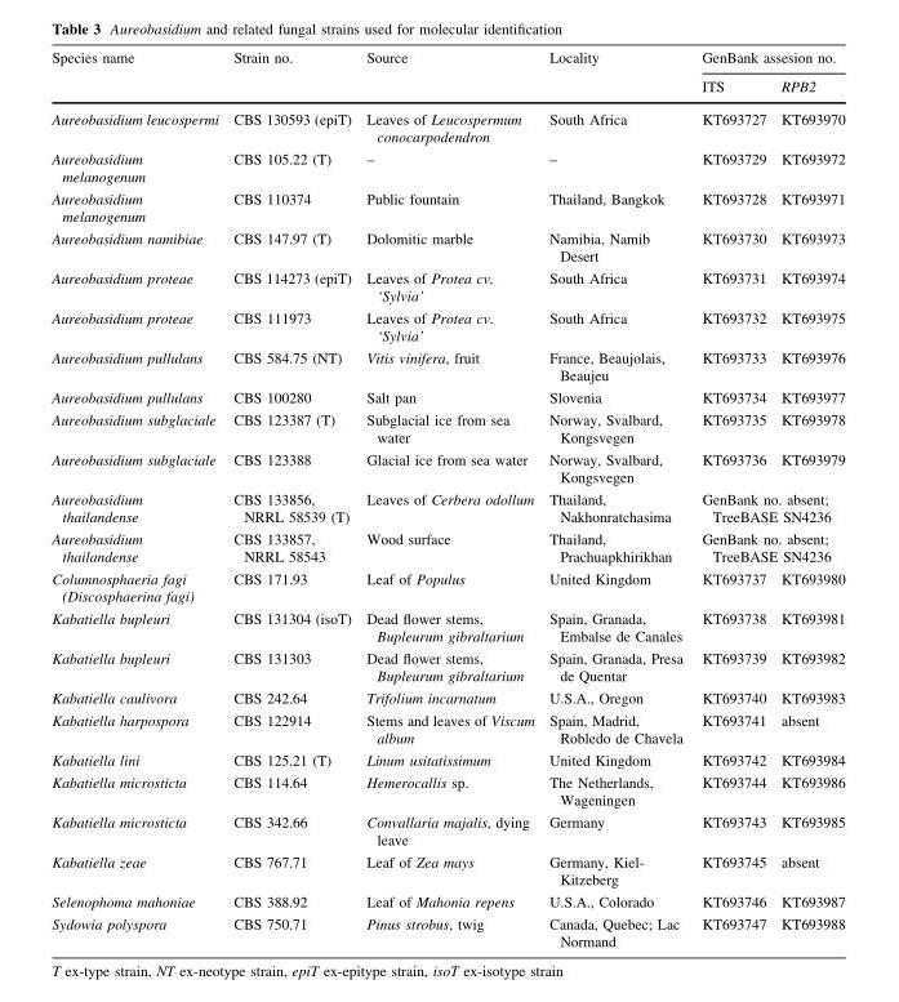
<table><thead><tr><td rowspan="2">Species name</td><td rowspan="2">Strain no.</td><td rowspan="2">Source</td><td rowspan="2">Locality</td><td colspan="2">GenBank assesion no.</td></tr><tr><td>ITS</td><td>RPB2</td></tr></thead><tbody><tr><td>Aureobasidium leucospermi</td><td>CBS 130593 (epiT)</td><td>Leaves of Leucospermum conocarpodendron</td><td>South Africa</td><td>KT693727</td><td>KT693970</td></tr><tr><td>Aureobasidium melanogenum</td><td>CBS 105.22 (T)</td><td>–</td><td>–</td><td>KT693729</td><td>KT693972</td></tr><tr><td>Aureobasidium melanogenum</td><td>CBS 110374</td><td>Public fountain</td><td>Thailand, Bangkok</td><td>KT693728</td><td>KT693971</td></tr><tr><td>Aureobasidium namibiae</td><td>CBS 147.97 (T)</td><td>Dolomitic marble</td><td>Namibia, Namib Desert</td><td>KT693730</td><td>KT693973</td></tr><tr><td>Aureobasidium proteae</td><td>CBS 114273 (epiT)</td><td>Leaves of Protea cv. ‘Sylvia’</td><td>South Africa</td><td>KT693731</td><td>KT693974</td></tr><tr><td>Aureobasidium proteae</td><td>CBS 111973</td><td>Leaves of Protea cv. ‘Sylvia’</td><td>South Africa</td><td>KT693732</td><td>KT693975</td></tr><tr><td>Aureobasidium pullulans</td><td>CBS 584.75 (NT)</td><td>Vitis vinifera, fruit</td><td>France, Beaujolais, Beaujeu</td><td>KT693733</td><td>KT693976</td></tr><tr><td>Aureobasidium pullulans</td><td>CBS 100280</td><td>Salt pan</td><td>Slovenia</td><td>KT693734</td><td>KT693977</td></tr><tr><td>Aureobasidium subglaciale</td><td>CBS 123387 (T)</td><td>Subglacial ice from sea water</td><td>Norway, Svalbard, Kongsvegen</td><td>KT693735</td><td>KT693978</td></tr><tr><td>Aureobasidium subglaciale</td><td>CBS 123388</td><td>Glacial ice from sea water</td><td>Norway, Svalbard, Kongsvegen</td><td>KT693736</td><td>KT693979</td></tr><tr><td>Aureobasidium thailandense</td><td>CBS 133856, NRRL 58539 (T)</td><td>Leaves of Cerbera odollum</td><td>Thailand, Nakhonratchasima</td><td colspan="2">GenBank no. absent; TreeBASE SN4236</td></tr><tr><td>Aureobasidium thailandense</td><td>CBS 133857, NRRL 58543</td><td>Wood surface</td><td>Thailand, Prachuapkhirikhan</td><td colspan="2">GenBank no. absent; TreeBASE SN4236</td></tr><tr><td>Columnosphaeria fagi (Discosphaerina fagi)</td><td>CBS 171.93</td><td>Leaf of Populus</td><td>United Kingdom</td><td>KT693737</td><td>KT693980</td></tr><tr><td>Kabatiella bupleuri</td><td>CBS 131304 (isoT)</td><td>Dead flower stems, Bupleurum gibraltarium</td><td>Spain, Granada, Embalse de Canales</td><td>KT693738</td><td>KT693981</td></tr><tr><td>Kabatiella bupleuri</td><td>CBS 131303</td><td>Dead flower stems, Bupleurum gibraltarium</td><td>Spain, Granada, Presa de Quentar</td><td>KT693739</td><td>KT693982</td></tr><tr><td>Kabatiella caulivora</td><td>CBS 242.64</td><td>Trifolium incarnatum</td><td>U.S.A., Oregon</td><td>KT693740</td><td>KT693983</td></tr><tr><td>Kabatiella harpospora</td><td>CBS 122914</td><td>Stems and leaves of Viscum album</td><td>Spain, Madrid, Robledo de Chavela</td><td>KT693741</td><td>absent</td></tr><tr><td>Kabatiella lini</td><td>CBS 125.21 (T)</td><td>Linum usitatissimum</td><td>United Kingdom</td><td>KT693742</td><td>KT693984</td></tr><tr><td>Kabatiella microsticta</td><td>CBS 114.64</td><td>Hemerocallis sp.</td><td>The Netherlands, Wageningen</td><td>KT693744</td><td>KT693986</td></tr><tr><td>Kabatiella microsticta</td><td>CBS 342.66</td><td>Convallaria majalis, dying leave</td><td>Germany</td><td>KT693743</td><td>KT693985</td></tr><tr><td>Kabatiella zeae</td><td>CBS 767.71</td><td>Leaf of Zea mays</td><td>Germany, Kiel- Kitzeberg</td><td>KT693745</td><td>absent</td></tr><tr><td>Selenophoma mahoniae</td><td>CBS 388.92</td><td>Leaf of Mahonia repens</td><td>U.S.A., Colorado</td><td>KT693746</td><td>KT693987</td></tr><tr><td>Sydowia polyspora</td><td>CBS 750.71</td><td>Pinus strobus, twig</td><td>Canada, Quebec; Lac Normand</td><td>KT693747</td><td>KT693988</td></tr></tbody></table>